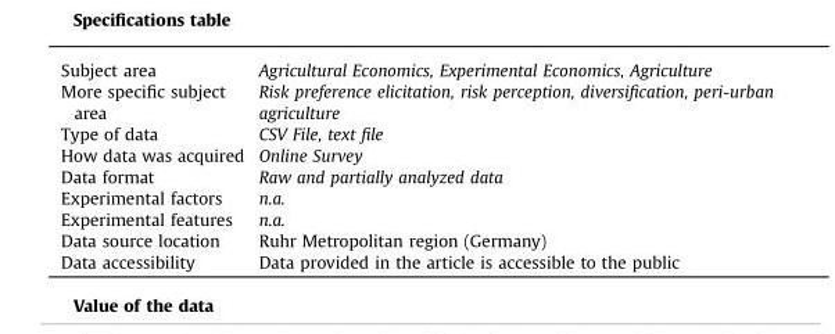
<table><tbody><tr><td>Subject area</td><td>Agricultural Economics, Experimental Economics, Agriculture</td></tr><tr><td>More specific subject area</td><td>Risk preference elicitation, risk perception, diversification, peri-urban agriculture</td></tr><tr><td>Type of data</td><td>CSV File, text file</td></tr><tr><td>How data was acquired</td><td>Online Survey</td></tr><tr><td>Data format</td><td>Raw and partially analyzed data</td></tr><tr><td>Experimental factors</td><td>n.a.</td></tr><tr><td>Experimental features</td><td>n.a.</td></tr><tr><td>Data source location</td><td>Ruhr Metropolitan region (Germany)</td></tr><tr><td>Data accessibility</td><td>Data provided in the article is accessible to the public</td></tr></tbody></table>